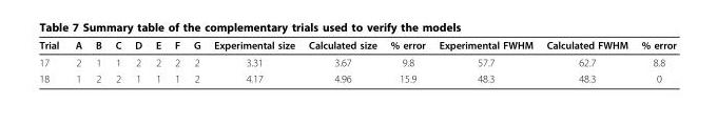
<table><thead><tr><td>Trial</td><td>A</td><td>B</td><td>C</td><td>D</td><td>E</td><td>F</td><td>G</td><td>Experimental size</td><td>Calculated size</td><td>% error</td><td>Experimental FWHM</td><td>Calculated FWHM</td><td>% error</td></tr></thead><tbody><tr><td>17</td><td>2</td><td>1</td><td>1</td><td>2</td><td>2</td><td>2</td><td>2</td><td>3.31</td><td>3.67</td><td>9.8</td><td>57.7</td><td>62.7</td><td>8.8</td></tr><tr><td>18</td><td>1</td><td>2</td><td>2</td><td>1</td><td>1</td><td>1</td><td>2</td><td>4.17</td><td>4.96</td><td>15.9</td><td>48.3</td><td>48.3</td><td>0</td></tr></tbody></table>